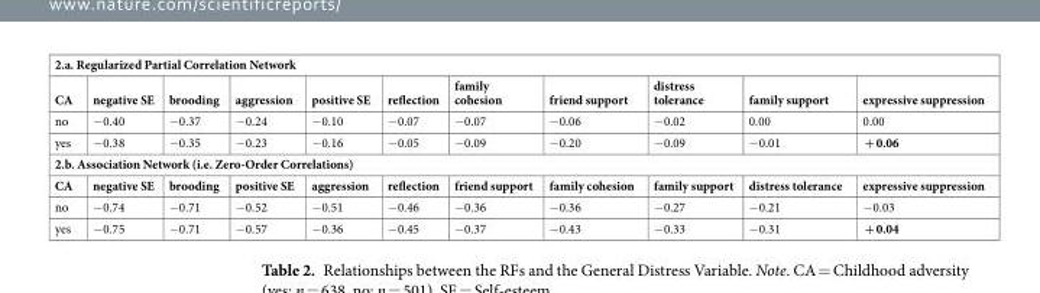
<table><tbody><tr><td colspan="11">2.a. Regularized Partial Correlation Network</td></tr><tr><td>CA</td><td>negative SE</td><td>brooding</td><td>aggression</td><td>positive SE</td><td>reflection</td><td>family cohesion</td><td>friend support</td><td>distress tolerance</td><td>family support</td><td>expressive suppression</td></tr><tr><td>no</td><td>−0.40</td><td>−0.37</td><td>−0.24</td><td>−0.10</td><td>−0.07</td><td>−0.07</td><td>−0.06</td><td>−0.02</td><td>0.00</td><td>0.00</td></tr><tr><td>yes</td><td>−0.38</td><td>−0.35</td><td>−0.23</td><td>−0.16</td><td>−0.05</td><td>−0.09</td><td>−0.20</td><td>−0.09</td><td>−0.01</td><td>+ 0.06</td></tr><tr><td colspan="11">2.b. Association Network (i.e. Zero-Order Correlations)</td></tr><tr><td>CA</td><td>negative SE</td><td>brooding</td><td>positive SE</td><td>aggression</td><td>reflection</td><td>friend support</td><td>family cohesion</td><td>family support</td><td>distress tolerance</td><td>expressive suppression</td></tr><tr><td>no</td><td>−0.74</td><td>−0.71</td><td>−0.52</td><td>−0.51</td><td>−0.46</td><td>−0.36</td><td>−0.36</td><td>−0.27</td><td>−0.21</td><td>−0.03</td></tr><tr><td>yes</td><td>−0.75</td><td>−0.71</td><td>−0.57</td><td>−0.36</td><td>−0.45</td><td>−0.37</td><td>−0.43</td><td>−0.33</td><td>−0.31</td><td>+ 0.04</td></tr></tbody></table>